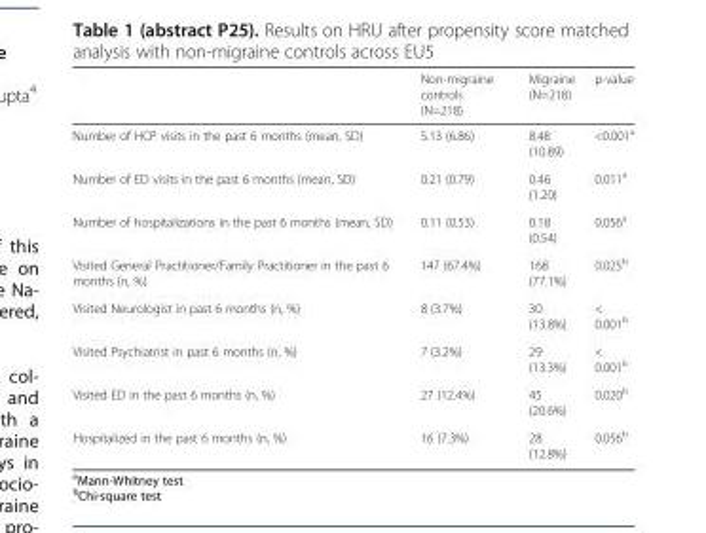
<table><thead><tr><td></td><td>Non-migraine controls (N=218)</td><td>Migraine (N=218)</td><td>p-value</td></tr></thead><tbody><tr><td>Number of HCP visits in the past 6 months (mean, SD)</td><td>5.13 (6.86)</td><td>8.48 (10.89)</td><td>&lt;0.001<sup>a</sup></td></tr><tr><td>Number of ED visits in the past 6 months (mean, SD)</td><td>0.21 (0.79)</td><td>0.46 (1.20)</td><td>0.011<sup>a</sup></td></tr><tr><td>Number of hospitalizations in the past 6 months (mean, SD)</td><td>0.11 (0.53)</td><td>0.18 (0.54)</td><td>0.056<sup>a</sup></td></tr><tr><td>Visited General Practitioner/Family Practitioner in the past 6 months (n, %)</td><td>147 (67.4%)</td><td>168 (77.1%)</td><td>0.025<sup>b</sup></td></tr><tr><td>Visited Neurologist in past 6 months (n, %)</td><td>8 (3.7%)</td><td>30 (13.8%)</td><td>&lt; 0.001<sup>b</sup></td></tr><tr><td>Visited Psychiatrist in past 6 months (n, %)</td><td>7 (3.2%)</td><td>29 (13.3%)</td><td>&lt; 0.001<sup>b</sup></td></tr><tr><td>Visited ED in the past 6 months (n, %)</td><td>27 (12.4%)</td><td>45 (20.6%)</td><td>0.020<sup>b</sup></td></tr><tr><td>Hospitalized in the past 6 months (n, %)</td><td>16 (7.3%)</td><td>28 (12.8%)</td><td>0.056<sup>b</sup></td></tr></tbody></table>